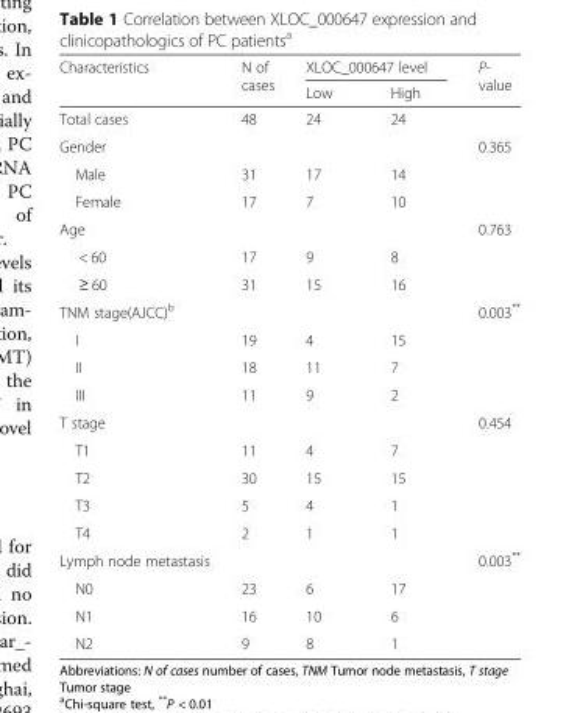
<table><thead><tr><td rowspan="2">Characteristics</td><td rowspan="2">N of cases</td><td colspan="2">XLOC_000647 level</td><td rowspan="2">P- value</td></tr><tr><td>Low</td><td>High</td></tr></thead><tbody><tr><td>Total cases</td><td>48</td><td>24</td><td>24</td><td></td></tr><tr><td>Gender</td><td></td><td></td><td></td><td>0.365</td></tr><tr><td>Male</td><td>31</td><td>17</td><td>14</td><td></td></tr><tr><td>Female</td><td>17</td><td>7</td><td>10</td><td></td></tr><tr><td>Age</td><td></td><td></td><td></td><td>0.763</td></tr><tr><td>&lt; 60</td><td>17</td><td>9</td><td>8</td><td></td></tr><tr><td>≥ 60</td><td>31</td><td>15</td><td>16</td><td></td></tr><tr><td>TNM stage(AJCC)<sup>b</sup></td><td></td><td></td><td></td><td>0.003**</td></tr><tr><td>I</td><td>19</td><td>4</td><td>15</td><td></td></tr><tr><td>II</td><td>18</td><td>11</td><td>7</td><td></td></tr><tr><td>III</td><td>11</td><td>9</td><td>2</td><td></td></tr><tr><td>T stage</td><td></td><td></td><td></td><td>0.454</td></tr><tr><td>T1</td><td>11</td><td>4</td><td>7</td><td></td></tr><tr><td>T2</td><td>30</td><td>15</td><td>15</td><td></td></tr><tr><td>T3</td><td>5</td><td>4</td><td>1</td><td></td></tr><tr><td>T4</td><td>2</td><td>1</td><td>1</td><td></td></tr><tr><td>Lymph node metastasis</td><td></td><td></td><td></td><td>0.003**</td></tr><tr><td>N0</td><td>23</td><td>6</td><td>17</td><td></td></tr><tr><td>N1</td><td>16</td><td>10</td><td>6</td><td></td></tr><tr><td>N2</td><td>9</td><td>8</td><td>1</td><td></td></tr></tbody></table>